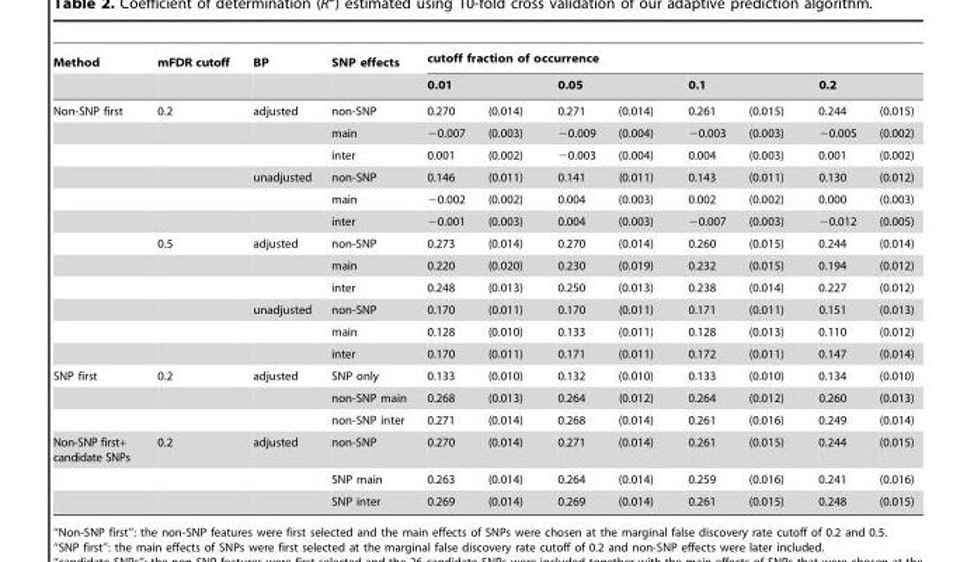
<table><thead><tr><td rowspan="3">Method Non-SNP first</td><td rowspan="3">mFDR cutoff 0.2</td><td rowspan="3">BP adjusted</td><td rowspan="3">SNP effects non-SNP</td><td colspan="8">cutoff fraction of occurrence</td></tr><tr><td colspan="2">0.01</td><td colspan="2">0.05</td><td colspan="2">0.1</td><td colspan="2">0.2</td></tr><tr><td>0.270</td><td>(0.014)</td><td>0.271</td><td>(0.014)</td><td>0.261</td><td>(0.015)</td><td>0.244</td><td>(0.015)</td></tr></thead><tbody><tr><td></td><td></td><td></td><td>main</td><td>−0.007</td><td>(0.003)</td><td>−0.009</td><td>(0.004)</td><td>−0.003</td><td>(0.003)</td><td>−0.005</td><td>(0.002)</td></tr><tr><td></td><td></td><td></td><td>inter</td><td>0.001</td><td>(0.002)</td><td>−0.003</td><td>(0.004)</td><td>0.004</td><td>(0.003)</td><td>0.001</td><td>(0.002)</td></tr><tr><td></td><td></td><td>unadjusted</td><td>non-SNP</td><td>0.146</td><td>(0.011)</td><td>0.141</td><td>(0.011)</td><td>0.143</td><td>(0.011)</td><td>0.130</td><td>(0.012)</td></tr><tr><td></td><td></td><td></td><td>main</td><td>−0.002</td><td>(0.002)</td><td>0.004</td><td>(0.003)</td><td>0.002</td><td>(0.002)</td><td>0.000</td><td>(0.003)</td></tr><tr><td></td><td></td><td></td><td>inter</td><td>−0.001</td><td>(0.003)</td><td>0.004</td><td>(0.003)</td><td>−0.007</td><td>(0.003)</td><td>−0.012</td><td>(0.005)</td></tr><tr><td></td><td>0.5</td><td>adjusted</td><td>non-SNP</td><td>0.273</td><td>(0.014)</td><td>0.270</td><td>(0.014)</td><td>0.260</td><td>(0.015)</td><td>0.244</td><td>(0.014)</td></tr><tr><td></td><td></td><td></td><td>main</td><td>0.220</td><td>(0.020)</td><td>0.230</td><td>(0.019)</td><td>0.232</td><td>(0.015)</td><td>0.194</td><td>(0.012)</td></tr><tr><td></td><td></td><td></td><td>inter</td><td>0.248</td><td>(0.013)</td><td>0.250</td><td>(0.013)</td><td>0.238</td><td>(0.014)</td><td>0.227</td><td>(0.012)</td></tr><tr><td></td><td></td><td>unadjusted</td><td>non-SNP</td><td>0.170</td><td>(0.011)</td><td>0.170</td><td>(0.011)</td><td>0.171</td><td>(0.011)</td><td>0.151</td><td>(0.013)</td></tr><tr><td></td><td></td><td></td><td>main</td><td>0.128</td><td>(0.010)</td><td>0.133</td><td>(0.011)</td><td>0.128</td><td>(0.013)</td><td>0.110</td><td>(0.012)</td></tr><tr><td></td><td></td><td></td><td>inter</td><td>0.170</td><td>(0.011)</td><td>0.171</td><td>(0.011)</td><td>0.172</td><td>(0.011)</td><td>0.147</td><td>(0.014)</td></tr><tr><td rowspan="3">SNP first</td><td>0.2</td><td>adjusted</td><td>SNP only</td><td>0.133</td><td>(0.010)</td><td>0.132</td><td>(0.010)</td><td>0.133</td><td>(0.010)</td><td>0.134</td><td>(0.010)</td></tr><tr><td></td><td></td><td>non-SNP main</td><td>0.268</td><td>(0.013)</td><td>0.264</td><td>(0.012)</td><td>0.264</td><td>(0.012)</td><td>0.260</td><td>(0.013)</td></tr><tr><td></td><td></td><td>non-SNP inter</td><td>0.271</td><td>(0.014)</td><td>0.268</td><td>(0.014)</td><td>0.261</td><td>(0.016)</td><td>0.249</td><td>(0.014)</td></tr><tr><td rowspan="3">Non-SNP first+ candidate SNPs</td><td>0.2</td><td>adjusted</td><td>non-SNP</td><td>0.270</td><td>(0.014)</td><td>0.271</td><td>(0.014)</td><td>0.261</td><td>(0.015)</td><td>0.244</td><td>(0.015)</td></tr><tr><td></td><td></td><td>SNP main</td><td>0.263</td><td>(0.014)</td><td>0.264</td><td>(0.014)</td><td>0.259</td><td>(0.016)</td><td>0.241</td><td>(0.016)</td></tr><tr><td></td><td></td><td>SNP inter</td><td>0.269</td><td>(0.014)</td><td>0.269</td><td>(0.014)</td><td>0.261</td><td>(0.015)</td><td>0.248</td><td>(0.015)</td></tr></tbody></table>